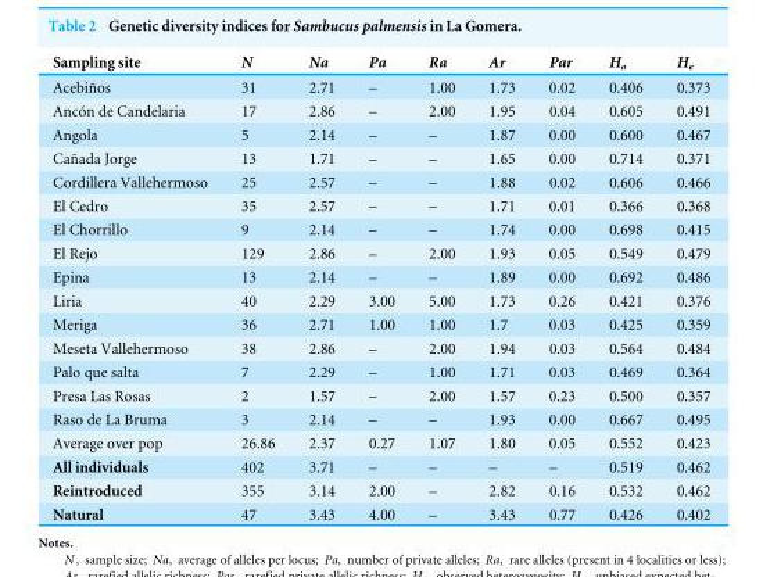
<table><thead><tr><td>Sampling site</td><td>N</td><td>Na</td><td>Pa</td><td>Ra</td><td>Ar</td><td>Par</td><td>H<sub>o</sub></td><td>H<sub>e</sub></td></tr></thead><tbody><tr><td>Acebiños</td><td>31</td><td>2.71</td><td>–</td><td>1.00</td><td>1.73</td><td>0.02</td><td>0.406</td><td>0.373</td></tr><tr><td>Ancón de Candelaria</td><td>17</td><td>2.86</td><td>–</td><td>2.00</td><td>1.95</td><td>0.04</td><td>0.605</td><td>0.491</td></tr><tr><td>Angola</td><td>5</td><td>2.14</td><td>–</td><td>–</td><td>1.87</td><td>0.00</td><td>0.600</td><td>0.467</td></tr><tr><td>Cañada Jorge</td><td>13</td><td>1.71</td><td>–</td><td>–</td><td>1.65</td><td>0.00</td><td>0.714</td><td>0.371</td></tr><tr><td>Cordillera Vallehermoso</td><td>25</td><td>2.57</td><td>–</td><td>–</td><td>1.88</td><td>0.02</td><td>0.606</td><td>0.466</td></tr><tr><td>El Cedro</td><td>35</td><td>2.57</td><td>–</td><td>–</td><td>1.71</td><td>0.01</td><td>0.366</td><td>0.368</td></tr><tr><td>El Chorrillo</td><td>9</td><td>2.14</td><td>–</td><td>–</td><td>1.74</td><td>0.00</td><td>0.698</td><td>0.415</td></tr><tr><td>El Rejo</td><td>129</td><td>2.86</td><td>–</td><td>2.00</td><td>1.93</td><td>0.05</td><td>0.549</td><td>0.479</td></tr><tr><td>Epina</td><td>13</td><td>2.14</td><td>–</td><td>–</td><td>1.89</td><td>0.00</td><td>0.692</td><td>0.486</td></tr><tr><td>Liria</td><td>40</td><td>2.29</td><td>3.00</td><td>5.00</td><td>1.73</td><td>0.26</td><td>0.421</td><td>0.376</td></tr><tr><td>Meriga</td><td>36</td><td>2.71</td><td>1.00</td><td>1.00</td><td>1.7</td><td>0.03</td><td>0.425</td><td>0.359</td></tr><tr><td>Meseta Vallehermoso</td><td>38</td><td>2.86</td><td>–</td><td>2.00</td><td>1.94</td><td>0.03</td><td>0.564</td><td>0.484</td></tr><tr><td>Palo que salta</td><td>7</td><td>2.29</td><td>–</td><td>1.00</td><td>1.71</td><td>0.03</td><td>0.469</td><td>0.364</td></tr><tr><td>Presa Las Rosas</td><td>2</td><td>1.57</td><td>–</td><td>2.00</td><td>1.57</td><td>0.23</td><td>0.500</td><td>0.357</td></tr><tr><td>Raso de La Bruma</td><td>3</td><td>2.14</td><td>–</td><td>–</td><td>1.93</td><td>0.00</td><td>0.667</td><td>0.495</td></tr><tr><td>Average over pop</td><td>26.86</td><td>2.37</td><td>0.27</td><td>1.07</td><td>1.80</td><td>0.05</td><td>0.552</td><td>0.423</td></tr><tr><td>All individuals</td><td>402</td><td>3.71</td><td>–</td><td>–</td><td>–</td><td>–</td><td>0.519</td><td>0.462</td></tr><tr><td>Reintroduced</td><td>355</td><td>3.14</td><td>2.00</td><td>–</td><td>2.82</td><td>0.16</td><td>0.532</td><td>0.462</td></tr><tr><td>Natural</td><td>47</td><td>3.43</td><td>4.00</td><td>–</td><td>3.43</td><td>0.77</td><td>0.426</td><td>0.402</td></tr></tbody></table>